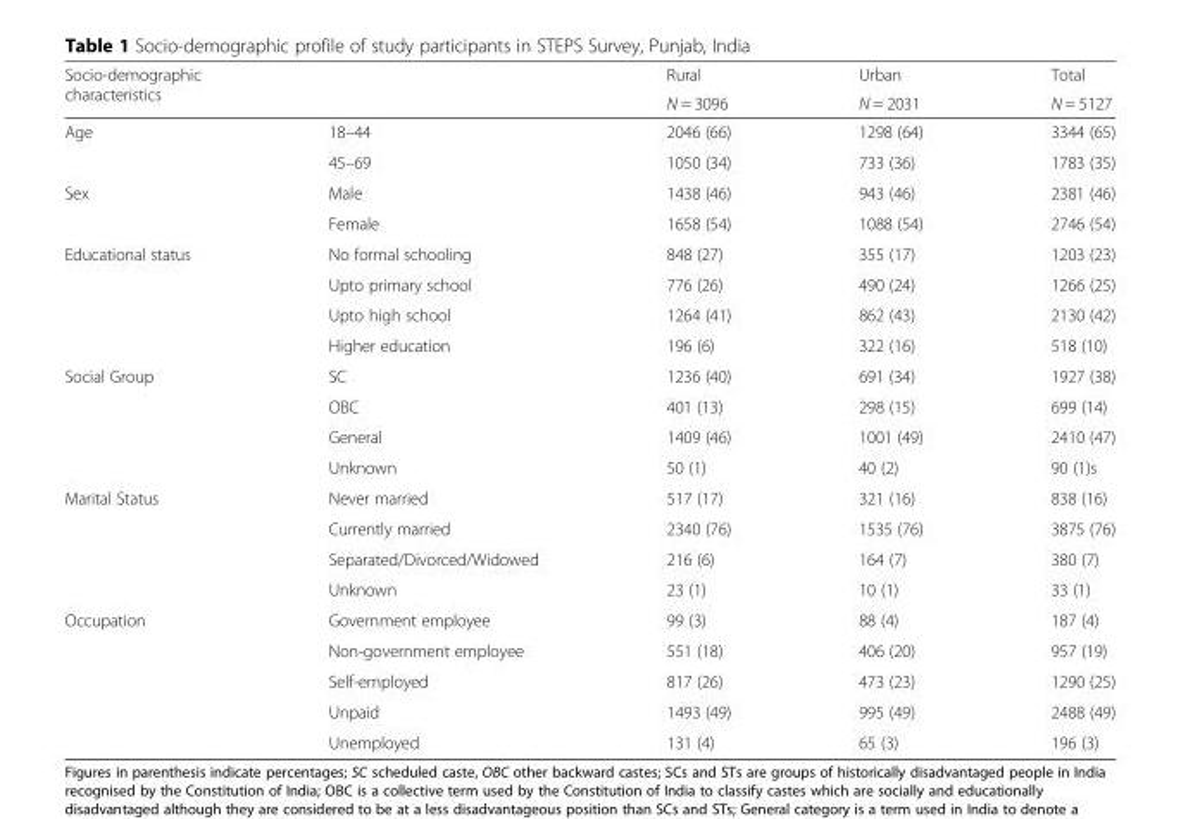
<table><thead><tr><td rowspan="2">Socio-demographic characteristics</td><td rowspan="2"></td><td rowspan="2">Rural N = 3096</td><td rowspan="2">Urban N = 2031</td><td rowspan="2">Total N = 5127</td></tr><tr></tr></thead><tbody><tr><td rowspan="2">Age</td><td>18–44</td><td>2046 (66)</td><td>1298 (64)</td><td>3344 (65)</td></tr><tr><td>45–69</td><td>1050 (34)</td><td>733 (36)</td><td>1783 (35)</td></tr><tr><td rowspan="2">Sex</td><td>Male</td><td>1438 (46)</td><td>943 (46)</td><td>2381 (46)</td></tr><tr><td>Female</td><td>1658 (54)</td><td>1088 (54)</td><td>2746 (54)</td></tr><tr><td rowspan="4">Educational status</td><td>No formal schooling</td><td>848 (27)</td><td>355 (17)</td><td>1203 (23)</td></tr><tr><td>Upto primary school</td><td>776 (26)</td><td>490 (24)</td><td>1266 (25)</td></tr><tr><td>Upto high school</td><td>1264 (41)</td><td>862 (43)</td><td>2130 (42)</td></tr><tr><td>Higher education</td><td>196 (6)</td><td>322 (16)</td><td>518 (10)</td></tr><tr><td rowspan="4">Social Group</td><td>SC</td><td>1236 (40)</td><td>691 (34)</td><td>1927 (38)</td></tr><tr><td>OBC</td><td>401 (13)</td><td>298 (15)</td><td>699 (14)</td></tr><tr><td>General</td><td>1409 (46)</td><td>1001 (49)</td><td>2410 (47)</td></tr><tr><td>Unknown</td><td>50 (1)</td><td>40 (2)</td><td>90 (1)s</td></tr><tr><td rowspan="4">Marital Status</td><td>Never married</td><td>517 (17)</td><td>321 (16)</td><td>838 (16)</td></tr><tr><td>Currently married</td><td>2340 (76)</td><td>1535 (76)</td><td>3875 (76)</td></tr><tr><td>Separated/Divorced/Widowed</td><td>216 (6)</td><td>164 (7)</td><td>380 (7)</td></tr><tr><td>Unknown</td><td>23 (1)</td><td>10 (1)</td><td>33 (1)</td></tr><tr><td rowspan="5">Occupation</td><td>Government employee</td><td>99 (3)</td><td>88 (4)</td><td>187 (4)</td></tr><tr><td>Non-government employee</td><td>551 (18)</td><td>406 (20)</td><td>957 (19)</td></tr><tr><td>Self-employed</td><td>817 (26)</td><td>473 (23)</td><td>1290 (25)</td></tr><tr><td>Unpaid</td><td>1493 (49)</td><td>995 (49)</td><td>2488 (49)</td></tr><tr><td>Unemployed</td><td>131 (4)</td><td>65 (3)</td><td>196 (3)</td></tr></tbody></table>